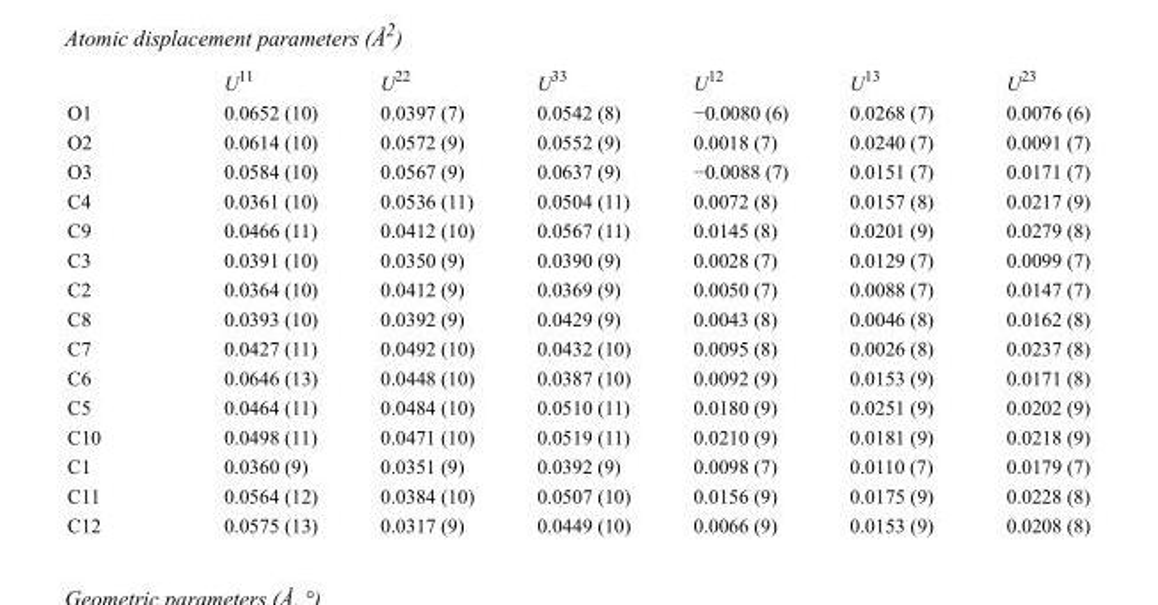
<table><thead><tr><td></td><td>U<sup>11</sup></td><td>U<sup>22</sup></td><td>U<sup>33</sup></td><td>U<sup>12</sup></td><td>U<sup>13</sup></td><td>U<sup>23</sup></td></tr></thead><tbody><tr><td>O1</td><td>0.0652 (10)</td><td>0.0397 (7)</td><td>0.0542 (8)</td><td>−0.0080 (6)</td><td>0.0268 (7)</td><td>0.0076 (6)</td></tr><tr><td>O2</td><td>0.0614 (10)</td><td>0.0572 (9)</td><td>0.0552 (9)</td><td>0.0018 (7)</td><td>0.0240 (7)</td><td>0.0091 (7)</td></tr><tr><td>O3</td><td>0.0584 (10)</td><td>0.0567 (9)</td><td>0.0637 (9)</td><td>−0.0088 (7)</td><td>0.0151 (7)</td><td>0.0171 (7)</td></tr><tr><td>C4</td><td>0.0361 (10)</td><td>0.0536 (11)</td><td>0.0504 (11)</td><td>0.0072 (8)</td><td>0.0157 (8)</td><td>0.0217 (9)</td></tr><tr><td>C9</td><td>0.0466 (11)</td><td>0.0412 (10)</td><td>0.0567 (11)</td><td>0.0145 (8)</td><td>0.0201 (9)</td><td>0.0279 (8)</td></tr><tr><td>C3</td><td>0.0391 (10)</td><td>0.0350 (9)</td><td>0.0390 (9)</td><td>0.0028 (7)</td><td>0.0129 (7)</td><td>0.0099 (7)</td></tr><tr><td>C2</td><td>0.0364 (10)</td><td>0.0412 (9)</td><td>0.0369 (9)</td><td>0.0050 (7)</td><td>0.0088 (7)</td><td>0.0147 (7)</td></tr><tr><td>C8</td><td>0.0393 (10)</td><td>0.0392 (9)</td><td>0.0429 (9)</td><td>0.0043 (8)</td><td>0.0046 (8)</td><td>0.0162 (8)</td></tr><tr><td>C7</td><td>0.0427 (11)</td><td>0.0492 (10)</td><td>0.0432 (10)</td><td>0.0095 (8)</td><td>0.0026 (8)</td><td>0.0237 (8)</td></tr><tr><td>C6</td><td>0.0646 (13)</td><td>0.0448 (10)</td><td>0.0387 (10)</td><td>0.0092 (9)</td><td>0.0153 (9)</td><td>0.0171 (8)</td></tr><tr><td>C5</td><td>0.0464 (11)</td><td>0.0484 (10)</td><td>0.0510 (11)</td><td>0.0180 (9)</td><td>0.0251 (9)</td><td>0.0202 (9)</td></tr><tr><td>C10</td><td>0.0498 (11)</td><td>0.0471 (10)</td><td>0.0519 (11)</td><td>0.0210 (9)</td><td>0.0181 (9)</td><td>0.0218 (9)</td></tr><tr><td>C1</td><td>0.0360 (9)</td><td>0.0351 (9)</td><td>0.0392 (9)</td><td>0.0098 (7)</td><td>0.0110 (7)</td><td>0.0179 (7)</td></tr><tr><td>C11</td><td>0.0564 (12)</td><td>0.0384 (10)</td><td>0.0507 (10)</td><td>0.0156 (9)</td><td>0.0175 (9)</td><td>0.0228 (8)</td></tr><tr><td>C12</td><td>0.0575 (13)</td><td>0.0317 (9)</td><td>0.0449 (10)</td><td>0.0066 (9)</td><td>0.0153 (9)</td><td>0.0208 (8)</td></tr></tbody></table>